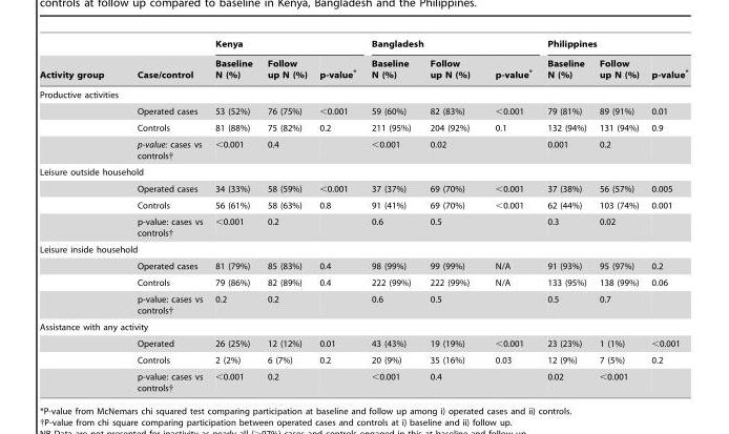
<table><thead><tr><td rowspan="2">Activity group</td><td rowspan="2">Case/control</td><td colspan="3">Kenya</td><td colspan="3">Bangladesh</td><td colspan="3">Philippines</td></tr><tr><td>Baseline N (%)</td><td>Follow up N (%)</td><td>p-value*</td><td>Baseline N (%)</td><td>Follow up N (%)</td><td>p-value*</td><td>Baseline N (%)</td><td>Follow up N (%)</td><td>p-value*</td></tr></thead><tbody><tr><td colspan="11">Productive activities</td></tr><tr><td></td><td>Operated cases</td><td>53 (52%)</td><td>76 (75%)</td><td>&lt;0.001</td><td>59 (60%)</td><td>82 (83%)</td><td>&lt;0.001</td><td>79 (81%)</td><td>89 (91%)</td><td>0.01</td></tr><tr><td></td><td>Controls</td><td>81 (88%)</td><td>75 (82%)</td><td>0.2</td><td>211 (95%)</td><td>204 (92%)</td><td>0.1</td><td>132 (94%)</td><td>131 (94%)</td><td>0.9</td></tr><tr><td></td><td>p-value: cases vs controls†</td><td>&lt;0.001</td><td>0.4</td><td></td><td>&lt;0.001</td><td>0.02</td><td></td><td>0.001</td><td>0.2</td><td></td></tr><tr><td colspan="11">Leisure outside household</td></tr><tr><td></td><td>Operated cases</td><td>34 (33%)</td><td>58 (59%)</td><td>&lt;0.001</td><td>37 (37%)</td><td>69 (70%)</td><td>&lt;0.001</td><td>37 (38%)</td><td>56 (57%)</td><td>0.005</td></tr><tr><td></td><td>Controls</td><td>56 (61%)</td><td>58 (63%)</td><td>0.8</td><td>91 (41%)</td><td>69 (70%)</td><td>&lt;0.001</td><td>62 (44%)</td><td>103 (74%)</td><td>0.001</td></tr><tr><td></td><td>p-value: cases vs controls†</td><td>&lt;0.001</td><td>0.2</td><td></td><td>0.6</td><td>0.5</td><td></td><td>0.3</td><td>0.02</td><td></td></tr><tr><td colspan="11">Leisure inside household</td></tr><tr><td></td><td>Operated cases</td><td>81 (79%)</td><td>85 (83%)</td><td>0.4</td><td>98 (99%)</td><td>99 (99%)</td><td>N/A</td><td>91 (93%)</td><td>95 (97%)</td><td>0.2</td></tr><tr><td></td><td>Controls</td><td>79 (86%)</td><td>82 (89%)</td><td>0.4</td><td>222 (99%)</td><td>222 (99%)</td><td>N/A</td><td>133 (95%)</td><td>138 (99%)</td><td>0.06</td></tr><tr><td></td><td>p-value: cases vs controls†</td><td>0.2</td><td>0.2</td><td></td><td>0.6</td><td>0.5</td><td></td><td>0.5</td><td>0.7</td><td></td></tr><tr><td colspan="11">Assistance with any activity</td></tr><tr><td></td><td>Operated</td><td>26 (25%)</td><td>12 (12%)</td><td>0.01</td><td>43 (43%)</td><td>19 (19%)</td><td>&lt;0.001</td><td>23 (23%)</td><td>1 (1%)</td><td>&lt;0.001</td></tr><tr><td></td><td>Controls</td><td>2 (2%)</td><td>6 (7%)</td><td>0.2</td><td>20 (9%)</td><td>35 (16%)</td><td>0.03</td><td>12 (9%)</td><td>7 (5%)</td><td>0.2</td></tr><tr><td></td><td>p-value: cases vs controls†</td><td>&lt;0.001</td><td>0.2</td><td></td><td>&lt;0.001</td><td>0.4</td><td></td><td>0.02</td><td>&lt;0.001</td><td></td></tr></tbody></table>